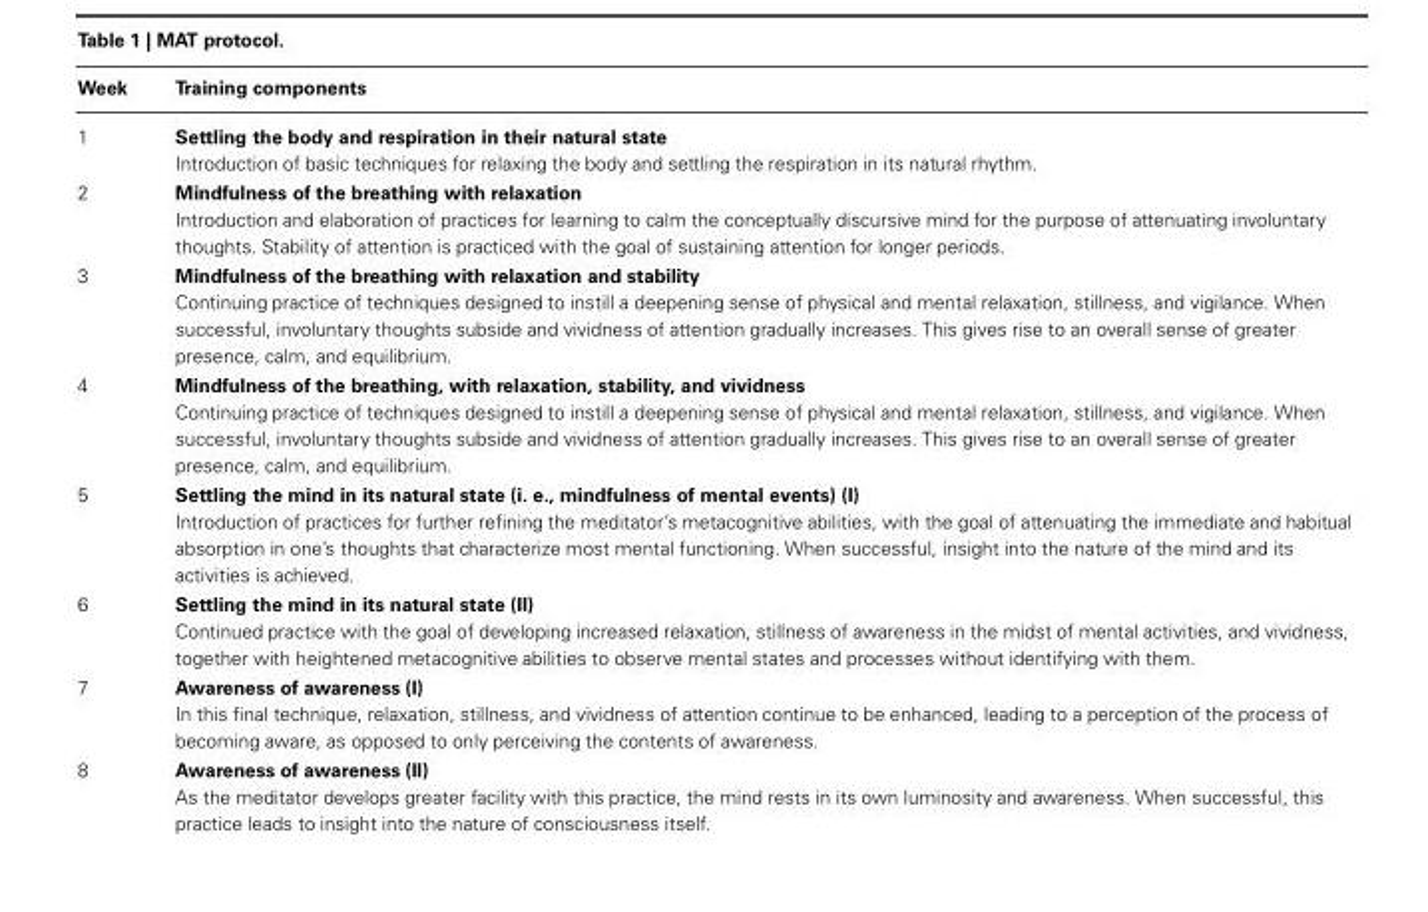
<table><thead><tr><td>Week</td><td>Training components</td></tr></thead><tbody><tr><td rowspan="2">1</td><td>Settling the body and respiration in their natural state</td></tr><tr><td>Introduction of basic techniques for relaxing the body and settling the respiration in its natural rhythm.</td></tr><tr><td rowspan="2">2</td><td>Mindfulness of the breathing with relaxation</td></tr><tr><td>Introduction and elaboration of practices for learning to calm the conceptually discursive mind for the purpose of attenuating involuntary thoughts. Stability of attention is practiced with the goal of sustaining attention for longer periods.</td></tr><tr><td rowspan="2">3</td><td>Mindfulness of the breathing with relaxation and stability</td></tr><tr><td>Continuing practice of techniques designed to instill a deepening sense of physical and mental relaxation, stillness, and vigilance. When successful, involuntary thoughts subside and vividness of attention gradually increases. This gives rise to an overall sense of greater presence, calm, and equilibrium.</td></tr><tr><td rowspan="2">4</td><td>Mindfulness of the breathing, with relaxation, stability, and vividness</td></tr><tr><td>Continuing practice of techniques designed to instill a deepening sense of physical and mental relaxation, stillness, and vigilance. When successful, involuntary thoughts subside and vividness of attention gradually increases. This gives rise to an overall sense of greater presence, calm, and equilibrium.</td></tr><tr><td rowspan="2">5</td><td>Settling the mind in its natural state (i. e., mindfulness of mental events) (I)</td></tr><tr><td>Introduction of practices for further refining the meditator’s metacognitive abilities, with the goal of attenuating the immediate and habitual absorption in one’s thoughts that characterize most mental functioning. When successful, insight into the nature of the mind and its activities is achieved.</td></tr><tr><td rowspan="2">6</td><td>Settling the mind in its natural state (II)</td></tr><tr><td>Continued practice with the goal of developing increased relaxation, stillness of awareness in the midst of mental activities, and vividness, together with heightened metacognitive abilities to observe mental states and processes without identifying with them.</td></tr><tr><td rowspan="2">7</td><td>Awareness of awareness (I)</td></tr><tr><td>In this final technique, relaxation, stillness, and vividness of attention continue to be enhanced, leading to a perception of the process of becoming aware, as opposed to only perceiving the contents of awareness.</td></tr><tr><td rowspan="2">8</td><td>Awareness of awareness (II)</td></tr><tr><td>As the meditator develops greater facility with this practice, the mind rests in its own luminosity and awareness. When successful, this practice leads to insight into the nature of consciousness itself.</td></tr></tbody></table>